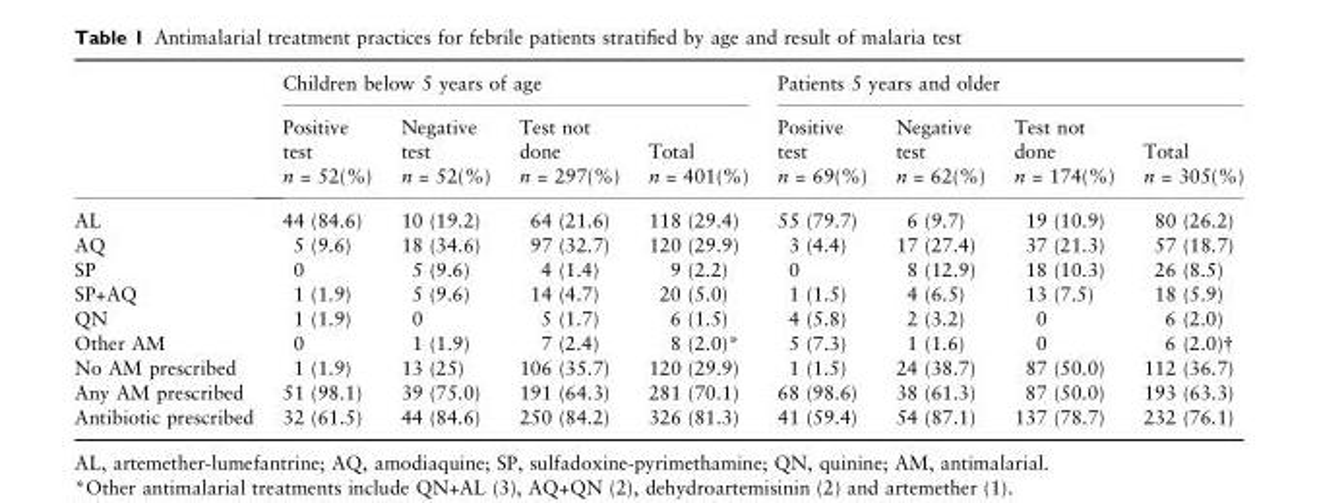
<table><thead><tr><td rowspan="2"></td><td colspan="4">Children below 5 years of age</td><td colspan="4">Patients 5 years and older</td></tr><tr><td>Positive test n = 52(%)</td><td>Negative test n = 52(%)</td><td>Test not done n = 297(%)</td><td>Total n = 401(%)</td><td>Positive test n = 69(%)</td><td>Negative test n = 62(%)</td><td>Test not done n = 174(%)</td><td>Total n = 305(%)</td></tr></thead><tbody><tr><td>AL</td><td>44 (84.6)</td><td>10 (19.2)</td><td>64 (21.6)</td><td>118 (29.4)</td><td>55 (79.7)</td><td>6 (9.7)</td><td>19 (10.9)</td><td>80 (26.2)</td></tr><tr><td>AQ</td><td>5 (9.6)</td><td>18 (34.6)</td><td>97 (32.7)</td><td>120 (29.9)</td><td>3 (4.4)</td><td>17 (27.4)</td><td>37 (21.3)</td><td>57 (18.7)</td></tr><tr><td>SP</td><td>0</td><td>5 (9.6)</td><td>4 (1.4)</td><td>9 (2.2)</td><td>0</td><td>8 (12.9)</td><td>18 (10.3)</td><td>26 (8.5)</td></tr><tr><td>SP+AQ</td><td>1 (1.9)</td><td>5 (9.6)</td><td>14 (4.7)</td><td>20 (5.0)</td><td>1 (1.5)</td><td>4 (6.5)</td><td>13 (7.5)</td><td>18 (5.9)</td></tr><tr><td>QN</td><td>1 (1.9)</td><td>0</td><td>5 (1.7)</td><td>6 (1.5)</td><td>4 (5.8)</td><td>2 (3.2)</td><td>0</td><td>6 (2.0)</td></tr><tr><td>Other AM</td><td>0</td><td>1 (1.9)</td><td>7 (2.4)</td><td>8 (2.0)*</td><td>5 (7.3)</td><td>1 (1.6)</td><td>0</td><td>6 (2.0)†</td></tr><tr><td>No AM prescribed</td><td>1 (1.9)</td><td>13 (25)</td><td>106 (35.7)</td><td>120 (29.9)</td><td>1 (1.5)</td><td>24 (38.7)</td><td>87 (50.0)</td><td>112 (36.7)</td></tr><tr><td>Any AM prescribed</td><td>51 (98.1)</td><td>39 (75.0)</td><td>191 (64.3)</td><td>281 (70.1)</td><td>68 (98.6)</td><td>38 (61.3)</td><td>87 (50.0)</td><td>193 (63.3)</td></tr><tr><td>Antibiotic prescribed</td><td>32 (61.5)</td><td>44 (84.6)</td><td>250 (84.2)</td><td>326 (81.3)</td><td>41 (59.4)</td><td>54 (87.1)</td><td>137 (78.7)</td><td>232 (76.1)</td></tr></tbody></table>